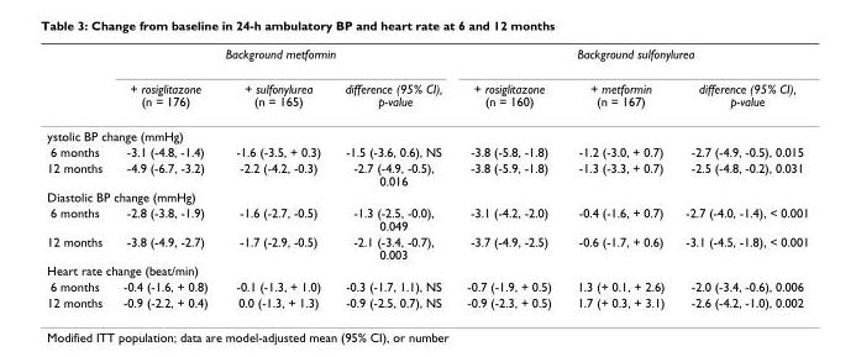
<table><thead><tr><td rowspan="2"></td><td colspan="3">Background metformin</td><td colspan="3">Background sulfonylurea</td></tr><tr><td>+ rosiglitazone (n = 176)</td><td>+ sulfonylurea (n = 165)</td><td>difference (95% CI), p-value</td><td>+ rosiglitazone (n = 160)</td><td>+ metformin (n = 167)</td><td>difference (95% CI), p-value</td></tr></thead><tbody><tr><td colspan="7">ystolic BP change (mmHg)</td></tr><tr><td>6 months</td><td>-3.1 (-4.8, -1.4)</td><td>-1.6 (-3.5, + 0.3)</td><td>-1.5 (-3.6, 0.6), NS</td><td>-3.8 (-5.8, -1.8)</td><td>-1.2 (-3.0, + 0.7)</td><td>-2.7 (-4.9, -0.5), 0.015</td></tr><tr><td>12 months</td><td>-4.9 (-6.7, -3.2)</td><td>-2.2 (-4.2, -0.3)</td><td>-2.7 (-4.9, -0.5), 0.016</td><td>-3.8 (-5.9, -1.8)</td><td>-1.3 (-3.3, + 0.7)</td><td>-2.5 (-4.8, -0.2), 0.031</td></tr><tr><td colspan="7">Diastolic BP change (mmHg)</td></tr><tr><td>6 months</td><td>-2.8 (-3.8, -1.9)</td><td>-1.6 (-2.7, -0.5)</td><td>-1.3 (-2.5, -0.0), 0.049</td><td>-3.1 (-4.2, -2.0)</td><td>-0.4 (-1.6, + 0.7)</td><td>-2.7 (-4.0, -1.4), &lt; 0.001</td></tr><tr><td>12 months</td><td>-3.8 (-4.9, -2.7)</td><td>-1.7 (-2.9, -0.5)</td><td>-2.1 (-3.4, -0.7), 0.003</td><td>-3.7 (-4.9, -2.5)</td><td>-0.6 (-1.7, + 0.6)</td><td>-3.1 (-4.5, -1.8), &lt; 0.001</td></tr><tr><td colspan="7">Heart rate change (beat/min)</td></tr><tr><td>6 months</td><td>-0.4 (-1.6, + 0.8)</td><td>-0.1 (-1.3, + 1.0)</td><td>-0.3 (-1.7, 1.1), NS</td><td>-0.7 (-1.9, + 0.5)</td><td>1.3 (+ 0.1, + 2.6)</td><td>-2.0 (-3.4, -0.6), 0.006</td></tr><tr><td>12 months</td><td>-0.9 (-2.2, + 0.4)</td><td>0.0 (-1.3, + 1.3)</td><td>-0.9 (-2.5, 0.7), NS</td><td>-0.9 (-2.3, + 0.5)</td><td>1.7 (+ 0.3, + 3.1)</td><td>-2.6 (-4.2, -1.0), 0.002</td></tr></tbody></table>